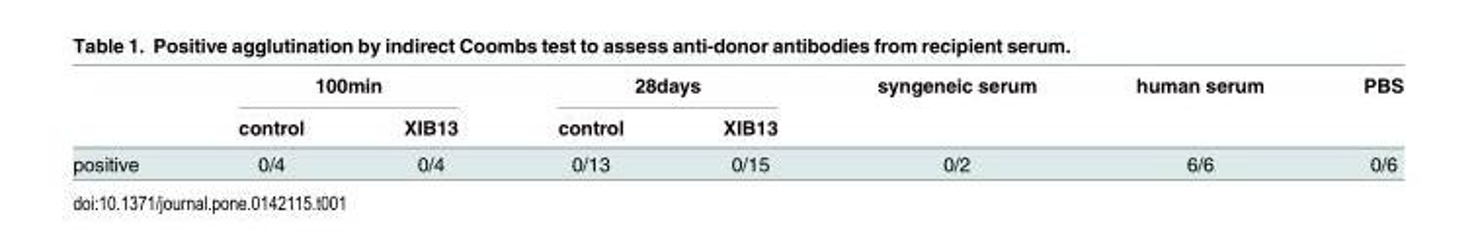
<table><thead><tr><td rowspan="2"></td><td colspan="2">100min</td><td colspan="2">28days</td><td rowspan="2">syngeneic serum</td><td rowspan="2">human serum</td><td rowspan="2">PBS</td></tr><tr><td>control</td><td>XIB13</td><td>control</td><td>XIB13</td></tr></thead><tbody><tr><td>positive</td><td>0/4</td><td>0/4</td><td>0/13</td><td>0/15</td><td>0/2</td><td>6/6</td><td>0/6</td></tr></tbody></table>